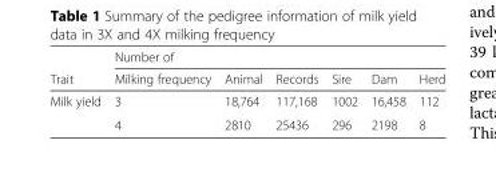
<table><thead><tr><td rowspan="2">Trait</td><td colspan="6">Number of</td></tr><tr><td>Milking frequency</td><td>Animal</td><td>Records</td><td>Sire</td><td>Dam</td><td>Herd</td></tr></thead><tbody><tr><td rowspan="2">Milk yield</td><td>3</td><td>18,764</td><td>117,168</td><td>1002</td><td>16,458</td><td>112</td></tr><tr><td>4</td><td>2810</td><td>25436</td><td>296</td><td>2198</td><td>8</td></tr></tbody></table>